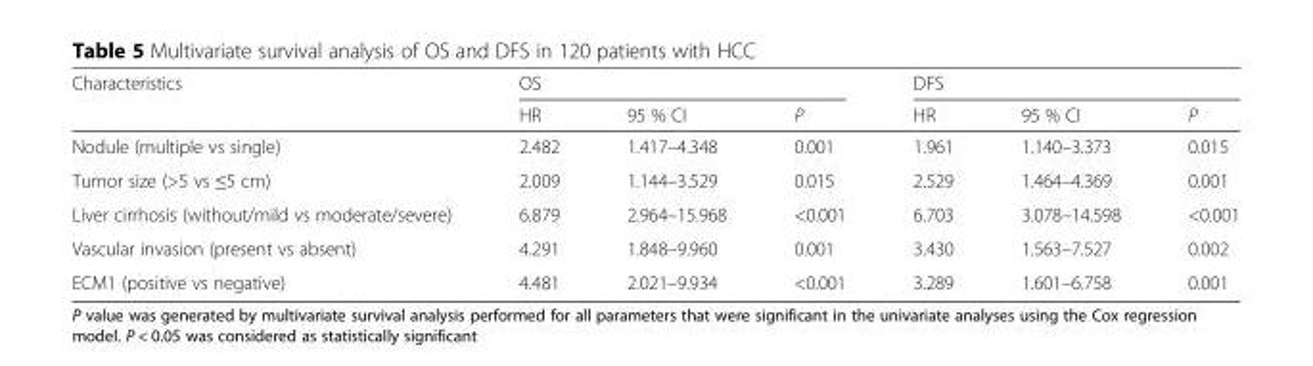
<table><thead><tr><td rowspan="2">Characteristics</td><td colspan="3">OS</td><td colspan="3">DFS</td></tr><tr><td>HR</td><td>95 % CI</td><td>P</td><td>HR</td><td>95 % CI</td><td>P</td></tr></thead><tbody><tr><td>Nodule (multiple vs single)</td><td>2.482</td><td>1.417–4.348</td><td>0.001</td><td>1.961</td><td>1.140–3.373</td><td>0.015</td></tr><tr><td>Tumor size (&gt;5 vs ≤5 cm)</td><td>2.009</td><td>1.144–3.529</td><td>0.015</td><td>2.529</td><td>1.464–4.369</td><td>0.001</td></tr><tr><td>Liver cirrhosis (without/mild vs moderate/severe)</td><td>6.879</td><td>2.964–15.968</td><td>&lt;0.001</td><td>6.703</td><td>3.078–14.598</td><td>&lt;0.001</td></tr><tr><td>Vascular invasion (present vs absent)</td><td>4.291</td><td>1.848–9.960</td><td>0.001</td><td>3.430</td><td>1.563–7.527</td><td>0.002</td></tr><tr><td>ECM1 (positive vs negative)</td><td>4.481</td><td>2.021–9.934</td><td>&lt;0.001</td><td>3.289</td><td>1.601–6.758</td><td>0.001</td></tr></tbody></table>